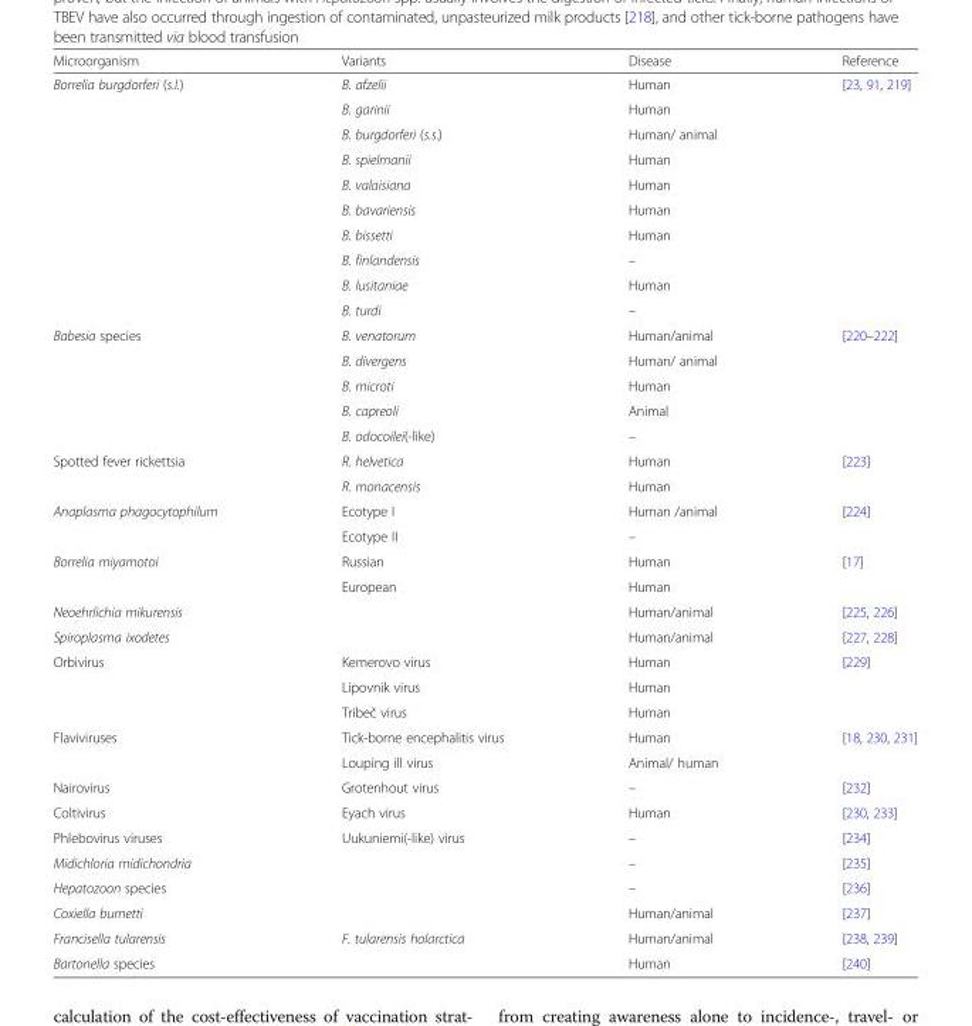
<table><thead><tr><td>Microorganism</td><td>Variants</td><td>Disease</td><td>Reference</td></tr></thead><tbody><tr><td rowspan="10">Borrelia burgdorferi (s.l.)</td><td>B. afzelii</td><td>Human</td><td rowspan="10">[23, 91, 219]</td></tr><tr><td>B. garinii</td><td>Human</td></tr><tr><td>B. burgdorferi (s.s.)</td><td>Human/ animal</td></tr><tr><td>B. spielmanii</td><td>Human</td></tr><tr><td>B. valaisiana</td><td>Human</td></tr><tr><td>B. bavariensis</td><td>Human</td></tr><tr><td>B. bissetti</td><td>Human</td></tr><tr><td>B. finlandensis</td><td>–</td></tr><tr><td>B. lusitaniae</td><td>Human</td></tr><tr><td>B. turdi</td><td>–</td></tr><tr><td rowspan="5">Babesia species</td><td>B. venatorum</td><td>Human/animal</td><td rowspan="5">[220–222]</td></tr><tr><td>B. divergens</td><td>Human/ animal</td></tr><tr><td>B. microti</td><td>Human</td></tr><tr><td>B. capreoli</td><td>Animal</td></tr><tr><td>B. odocoilei(-like)</td><td>–</td></tr><tr><td rowspan="2">Spotted fever rickettsia</td><td>R. helvetica</td><td>Human</td><td rowspan="2">[223]</td></tr><tr><td>R. monacensis</td><td>Human</td></tr><tr><td rowspan="2">Anaplasma phagocytophilum</td><td>Ecotype I</td><td>Human /animal</td><td rowspan="2">[224]</td></tr><tr><td>Ecotype II</td><td>–</td></tr><tr><td rowspan="2">Borrelia miyamotoi</td><td>Russian</td><td>Human</td><td rowspan="2">[17]</td></tr><tr><td>European</td><td>Human</td></tr><tr><td>Neoehrlichia mikurensis</td><td></td><td>Human/animal</td><td>[225, 226]</td></tr><tr><td>Spiroplasma ixodetes</td><td></td><td>Human/animal</td><td>[227, 228]</td></tr><tr><td rowspan="3">Orbivirus</td><td>Kemerovo virus</td><td>Human</td><td rowspan="3">[229]</td></tr><tr><td>Lipovnik virus</td><td>Human</td></tr><tr><td>Tribeč virus</td><td>Human</td></tr><tr><td rowspan="2">Flaviviruses</td><td>Tick-borne encephalitis virus</td><td>Human</td><td rowspan="2">[18, 230, 231]</td></tr><tr><td>Louping ill virus</td><td>Animal/ human</td></tr><tr><td>Nairovirus</td><td>Grotenhout virus</td><td>–</td><td>[232]</td></tr><tr><td>Coltivirus</td><td>Eyach virus</td><td>Human</td><td>[230, 233]</td></tr><tr><td>Phlebovirus viruses</td><td>Uukuniemi(-like) virus</td><td>–</td><td>[234]</td></tr><tr><td>Midichloria midichondria</td><td></td><td>–</td><td>[235]</td></tr><tr><td>Hepatozoon species</td><td></td><td>–</td><td>[236]</td></tr><tr><td>Coxiella burnetti</td><td></td><td>Human/animal</td><td>[237]</td></tr><tr><td>Francisella tularensis</td><td>F. tularensis holarctica</td><td>Human/animal</td><td>[238, 239]</td></tr><tr><td>Bartonella species</td><td></td><td>Human</td><td>[240]</td></tr></tbody></table>